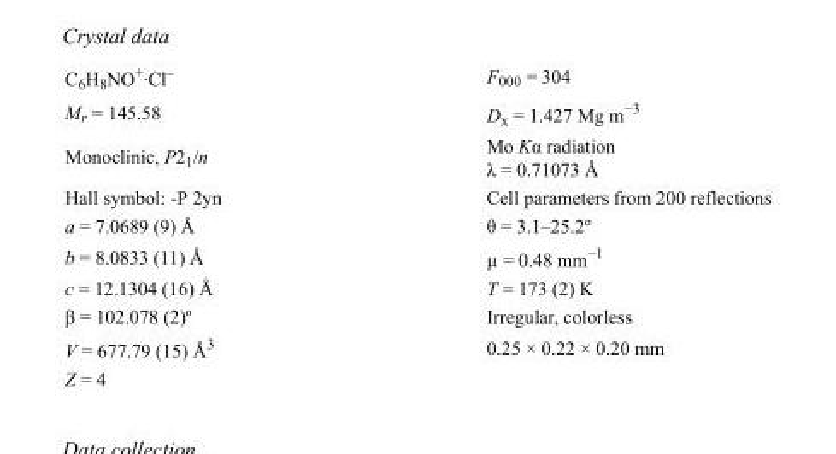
<table><tbody><tr><td>C<sub>6</sub>H<sub>8</sub>NO<sup>+</sup>·Cl<sup>–</sup></td><td>F000 = 304</td></tr><tr><td>M<sub>r</sub> = 145.58</td><td>D<sub>x</sub> = 1.427 Mg m<sup>−3</sup></td></tr><tr><td>Monoclinic, P2<sub>1</sub>/n</td><td>Mo Kα radiation λ = 0.71073 Å</td></tr><tr><td>Hall symbol: -P 2yn</td><td>Cell parameters from 200 reflections</td></tr><tr><td>a = 7.0689 (9) Å</td><td>θ = 3.1–25.2º</td></tr><tr><td>b = 8.0833 (11) Å</td><td>µ = 0.48 mm<sup>−1</sup></td></tr><tr><td>c = 12.1304 (16) Å</td><td>T = 173 (2) K</td></tr><tr><td>β = 102.078 (2)º</td><td>Irregular, colorless</td></tr><tr><td>V = 677.79 (15) Å<sup>3</sup></td><td>0.25 × 0.22 × 0.20 mm</td></tr><tr><td>Z = 4</td><td></td></tr></tbody></table>